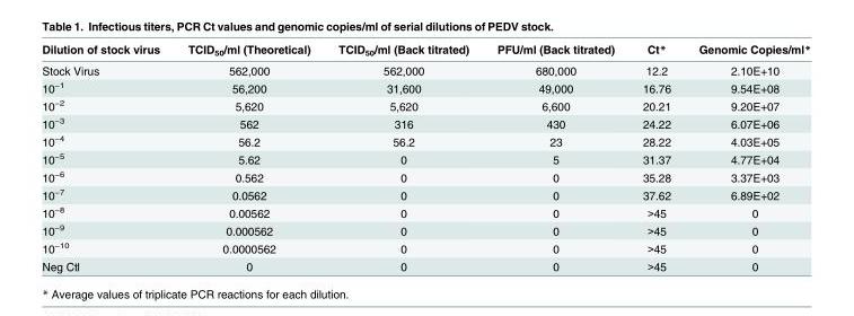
<table><thead><tr><td>Dilution of stock virus</td><td>TCID<sub>50</sub>/ml (Theoretical)</td><td>TCID<sub>50</sub>/ml (Back titrated)</td><td>PFU/ml (Back titrated)</td><td>Ct*</td><td>Genomic Copies/ml*</td></tr></thead><tbody><tr><td>Stock Virus</td><td>562,000</td><td>562,000</td><td>680,000</td><td>12.2</td><td>2.10E+10</td></tr><tr><td>10<sup>−1</sup></td><td>56,200</td><td>31,600</td><td>49,000</td><td>16.76</td><td>9.54E+08</td></tr><tr><td>10<sup>−2</sup></td><td>5,620</td><td>5,620</td><td>6,600</td><td>20.21</td><td>9.20E+07</td></tr><tr><td>10<sup>−3</sup></td><td>562</td><td>316</td><td>430</td><td>24.22</td><td>6.07E+06</td></tr><tr><td>10<sup>−4</sup></td><td>56.2</td><td>56.2</td><td>23</td><td>28.22</td><td>4.03E+05</td></tr><tr><td>10<sup>−5</sup></td><td>5.62</td><td>0</td><td>5</td><td>31.37</td><td>4.77E+04</td></tr><tr><td>10<sup>−6</sup></td><td>0.562</td><td>0</td><td>0</td><td>35.28</td><td>3.37E+03</td></tr><tr><td>10<sup>−7</sup></td><td>0.0562</td><td>0</td><td>0</td><td>37.62</td><td>6.89E+02</td></tr><tr><td>10<sup>−8</sup></td><td>0.00562</td><td>0</td><td>0</td><td>&gt;45</td><td>0</td></tr><tr><td>10<sup>−9</sup></td><td>0.000562</td><td>0</td><td>0</td><td>&gt;45</td><td>0</td></tr><tr><td>10<sup>−10</sup></td><td>0.0000562</td><td>0</td><td>0</td><td>&gt;45</td><td>0</td></tr><tr><td>Neg Ctl</td><td>0</td><td>0</td><td>0</td><td>&gt;45</td><td>0</td></tr></tbody></table>